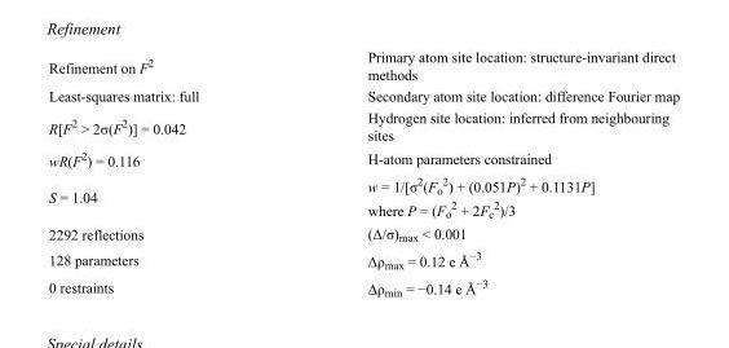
<table><tbody><tr><td>Refinement on F<sup>2</sup></td><td>Primary atom site location: structure-invariant direct methods</td></tr><tr><td>Least-squares matrix: full</td><td>Secondary atom site location: difference Fourier map</td></tr><tr><td>R[F<sup>2</sup> &gt; 2σ(F<sup>2</sup>)] = 0.042</td><td>Hydrogen site location: inferred from neighbouring sites</td></tr><tr><td>wR(F<sup>2</sup>) = 0.116</td><td>H-atom parameters constrained</td></tr><tr><td>S = 1.04</td><td>w = 1/[σ<sup>2</sup>(F<sub>o</sub> <sup>2</sup>) + (0.051P)<sup>2</sup> + 0.1131P] where P = (F<sub>o</sub> <sup>2</sup> + 2F<sub>c</sub> <sup>2</sup>)/3</td></tr><tr><td>2292 reflections</td><td>(Δ/σ)<sub>max</sub> &lt; 0.001</td></tr><tr><td>128 parameters</td><td>Δρ<sub>max</sub> = 0.12 e Å<sup>−3</sup></td></tr><tr><td>0 restraints</td><td>Δρ<sub>min</sub> = −0.14 e Å<sup>−3</sup></td></tr></tbody></table>